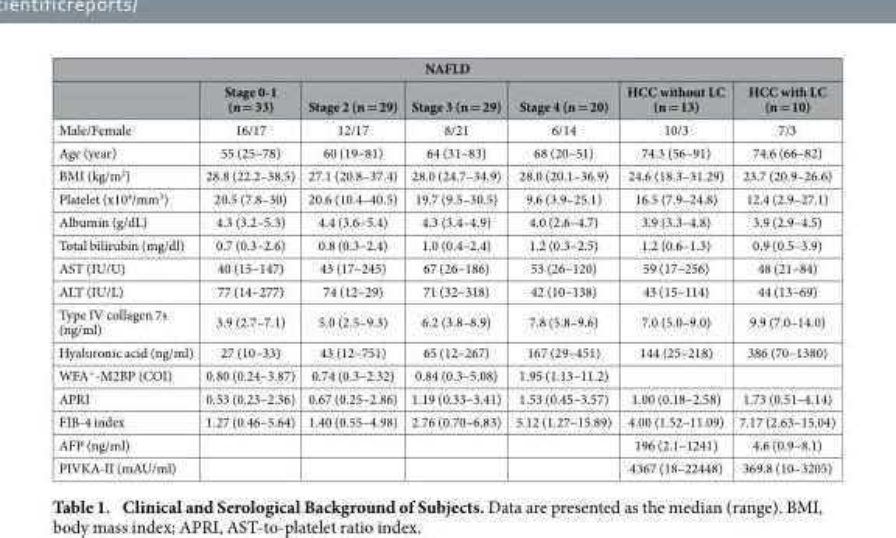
<table><thead><tr><td colspan="7">NAFLD</td></tr><tr><td></td><td>Stage 0-1 (n = 33)</td><td>Stage 2 (n = 29)</td><td>Stage 3 (n = 29)</td><td>Stage 4 (n = 20)</td><td>HCC without LC (n = 13)</td><td>HCC with LC (n = 10)</td></tr></thead><tbody><tr><td>Male/Female</td><td>16/17</td><td>12/17</td><td>8/21</td><td>6/14</td><td>10/3</td><td>7/3</td></tr><tr><td>Age (year)</td><td>55 (25–78)</td><td>60 (19–81)</td><td>64 (31–83)</td><td>68 (20–51)</td><td>74.3 (56–91)</td><td>74.6 (66–82)</td></tr><tr><td>BMI (kg/m<sup>2</sup>)</td><td>28.8 (22.2–38.5)</td><td>27.1 (20.8–37.4)</td><td>28.0 (24.7–34.9)</td><td>28.0 (20.1–36.9)</td><td>24.6 (18.3–31.29)</td><td>23.7 (20.9–26.6)</td></tr><tr><td>Platelet (x10<sup>4</sup>/mm<sup>3</sup>)</td><td>20.5 (7.8–30)</td><td>20.6 (10.4–40.5)</td><td>19.7 (9.5–30.5)</td><td>9.6 (3.9–25.1)</td><td>16.5 (7.9–24.8)</td><td>12.4 (2.9–27.1)</td></tr><tr><td>Albumin (g/dL)</td><td>4.3 (3.2–5.3)</td><td>4.4 (3.6–5.4)</td><td>4.3 (3.4–4.9)</td><td>4.0 (2.6–4.7)</td><td>3.9 (3.3–4.8)</td><td>3.9 (2.9–4.5)</td></tr><tr><td>Total bilirubin (mg/dl)</td><td>0.7 (0.3–2.6)</td><td>0.8 (0.3–2.4)</td><td>1.0 (0.4–2.4)</td><td>1.2 (0.3–2.5)</td><td>1.2 (0.6–1.3)</td><td>0.9 (0.5–3.9)</td></tr><tr><td>AST (IU/U)</td><td>40 (15–147)</td><td>43 (17–245)</td><td>67 (26–186)</td><td>53 (26–120)</td><td>59 (17–256)</td><td>48 (21–84)</td></tr><tr><td>ALT (IU/L)</td><td>77 (14–277)</td><td>74 (12–29)</td><td>71 (32–318)</td><td>42 (10–138)</td><td>43 (15–114)</td><td>44 (13–69)</td></tr><tr><td>Type IV collagen 7s (ng/ml)</td><td>3.9 (2.7–7.1)</td><td>5.0 (2.5–9.3)</td><td>6.2 (3.8–8.9)</td><td>7.8 (5.8–9.6)</td><td>7.0 (5.0–9.0)</td><td>9.9 (7.0–14.0)</td></tr><tr><td>Hyaluronic acid (ng/ml)</td><td>27 (10–33)</td><td>43 (12–751)</td><td>65 (12–267)</td><td>167 (29–451)</td><td>144 (25–218)</td><td>386 (70–1380)</td></tr><tr><td>WFA<sup>+</sup>-M2BP (COI)</td><td>0.80 (0.24–3.87)</td><td>0.74 (0.3–2.32)</td><td>0.84 (0.3–5.08)</td><td>1.95 (1.13–11.2)</td><td></td><td></td></tr><tr><td>APRI</td><td>0.53 (0.23–2.36)</td><td>0.67 (0.25–2.86)</td><td>1.19 (0.33–3.41)</td><td>1.53 (0.45–3.57)</td><td>1.00 (0.18–2.58)</td><td>1.73 (0.51–4.14)</td></tr><tr><td>FIB-4 index</td><td>1.27 (0.46–5.64)</td><td>1.40 (0.55–4.98)</td><td>2.76 (0.70–6.83)</td><td>5.12 (1.27–15.89)</td><td>4.00 (1.52–11.09)</td><td>7.17 (2.63–15.04)</td></tr><tr><td>AFP (ng/ml)</td><td></td><td></td><td></td><td></td><td>196 (2.1–1241)</td><td>4.6 (0.9–8.1)</td></tr><tr><td>PIVKA-II (mAU/ml)</td><td></td><td></td><td></td><td></td><td>4367 (18–22448)</td><td>369.8 (10–3205)</td></tr></tbody></table>